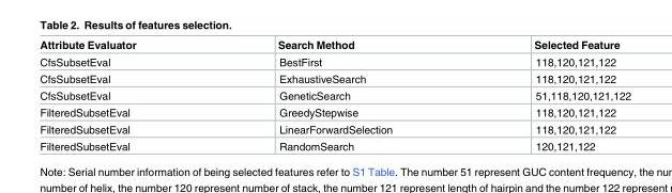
<table><thead><tr><td>Attribute Evaluator</td><td>Search Method</td><td>Selected Feature</td></tr></thead><tbody><tr><td>CfsSubsetEval</td><td>BestFirst</td><td>118,120,121,122</td></tr><tr><td>CfsSubsetEval</td><td>ExhaustiveSearch</td><td>118,120,121,122</td></tr><tr><td>CfsSubsetEval</td><td>GeneticSearch</td><td>51,118,120,121,122</td></tr><tr><td>FilteredSubsetEval</td><td>GreedyStepwise</td><td>118,120,121,122</td></tr><tr><td>FilteredSubsetEval</td><td>LinearForwardSelection</td><td>118,120,121,122</td></tr><tr><td>FilteredSubsetEval</td><td>RandomSearch</td><td>120,121,122</td></tr></tbody></table>